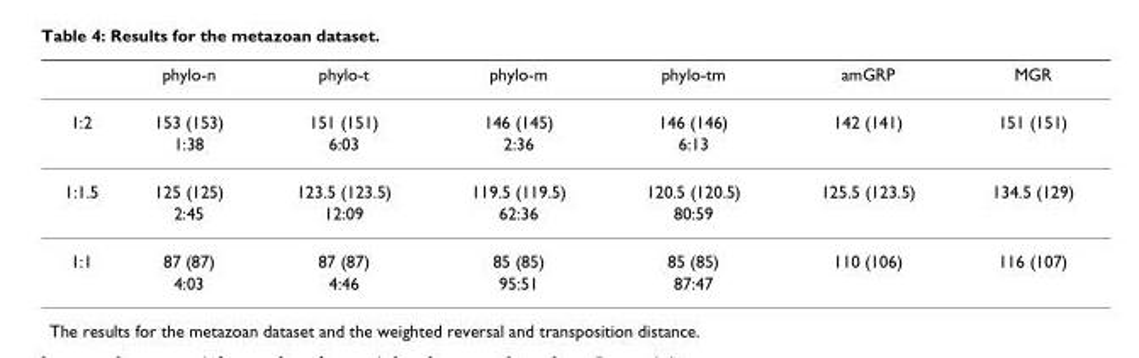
<table><thead><tr><td></td><td>phylo-n</td><td>phylo-t</td><td>phylo-m</td><td>phylo-tm</td><td>amGRP</td><td>MGR</td></tr></thead><tbody><tr><td rowspan="2">1:2</td><td>153 (153)</td><td>151 (151)</td><td>146 (145)</td><td>146 (146)</td><td>142 (141)</td><td>151 (151)</td></tr><tr><td>1:38</td><td>6:03</td><td>2:36</td><td>6:13</td><td></td><td></td></tr><tr><td rowspan="2">1:1.5</td><td>125 (125)</td><td>123.5 (123.5)</td><td>119.5 (119.5)</td><td>120.5 (120.5)</td><td>125.5 (123.5)</td><td>134.5 (129)</td></tr><tr><td>2:45</td><td>12:09</td><td>62:36</td><td>80:59</td><td></td><td></td></tr><tr><td rowspan="2">1:1</td><td>87 (87)</td><td>87 (87)</td><td>85 (85)</td><td>85 (85)</td><td>110 (106)</td><td>116 (107)</td></tr><tr><td>4:03</td><td>4:46</td><td>95:51</td><td>87:47</td><td></td><td></td></tr></tbody></table>